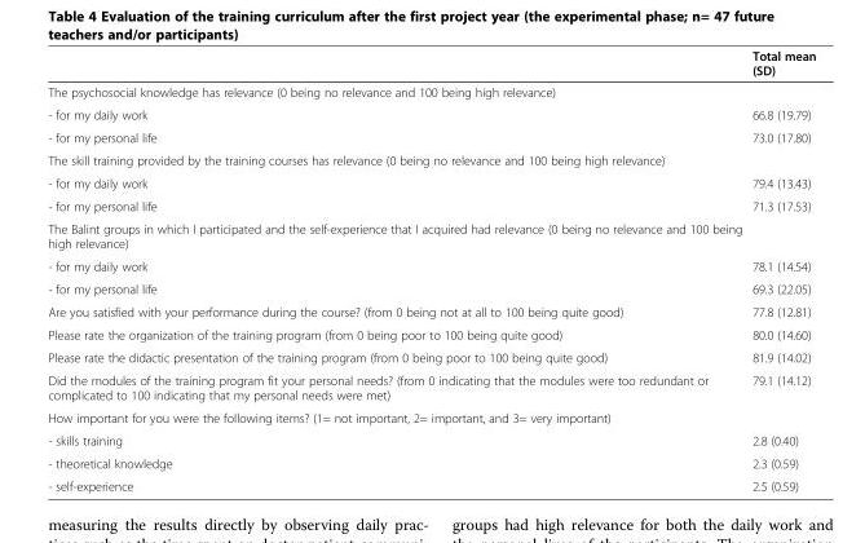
<table><thead><tr><td></td><td>Total mean (SD)</td></tr></thead><tbody><tr><td colspan="2">The psychosocial knowledge has relevance (0 being no relevance and 100 being high relevance)</td></tr><tr><td>- for my daily work</td><td>66.8 (19.79)</td></tr><tr><td>- for my personal life</td><td>73.0 (17.80)</td></tr><tr><td colspan="2">The skill training provided by the training courses has relevance (0 being no relevance and 100 being high relevance)</td></tr><tr><td>- for my daily work</td><td>79.4 (13.43)</td></tr><tr><td>- for my personal life</td><td>71.3 (17.53)</td></tr><tr><td colspan="2">The Balint groups in which I participated and the self-experience that I acquired had relevance (0 being no relevance and 100 being high relevance)</td></tr><tr><td>- for my daily work</td><td>78.1 (14.54)</td></tr><tr><td>- for my personal life</td><td>69.3 (22.05)</td></tr><tr><td>Are you satisfied with your performance during the course? (from 0 being not at all to 100 being quite good)</td><td>77.8 (12.81)</td></tr><tr><td>Please rate the organization of the training program (from 0 being poor to 100 being quite good)</td><td>80.0 (14.60)</td></tr><tr><td>Please rate the didactic presentation of the training program (from 0 being poor to 100 being quite good)</td><td>81.9 (14.02)</td></tr><tr><td>Did the modules of the training program fit your personal needs? (from 0 indicating that the modules were too redundant or complicated to 100 indicating that my personal needs were met)</td><td>79.1 (14.12)</td></tr><tr><td colspan="2">How important for you were the following items? (1= not important, 2= important, and 3= very important)</td></tr><tr><td>- skills training</td><td>2.8 (0.40)</td></tr><tr><td>- theoretical knowledge</td><td>2.3 (0.59)</td></tr><tr><td>- self-experience</td><td>2.5 (0.59)</td></tr></tbody></table>